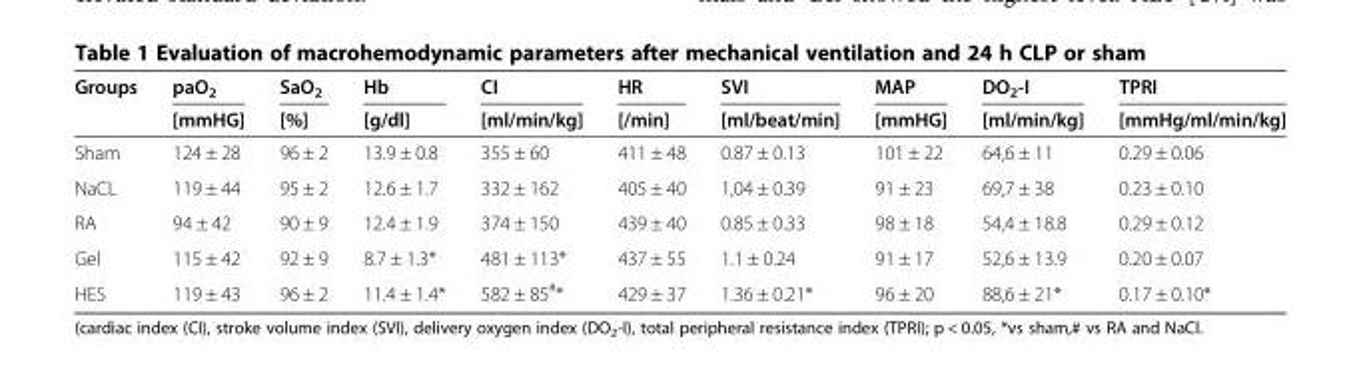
<table><thead><tr><td rowspan="2">Groups</td><td rowspan="2">paO<sub>2</sub> [mmHG]</td><td rowspan="2">SaO<sub>2</sub> [%]</td><td rowspan="2">Hb [g/dl]</td><td rowspan="2">CI [ml/min/kg]</td><td rowspan="2">HR [/min]</td><td rowspan="2">SVI [ml/beat/min]</td><td rowspan="2">MAP [mmHG]</td><td rowspan="2">DO<sub>2</sub>-I [ml/min/kg]</td><td rowspan="2">TPRI [mmHg/ml/min/kg]</td></tr><tr></tr></thead><tbody><tr><td>Sham</td><td>124 ± 28</td><td>96 ± 2</td><td>13.9 ± 0.8</td><td>355 ± 60</td><td>411 ± 48</td><td>0.87 ± 0.13</td><td>101 ± 22</td><td>64,6 ± 11</td><td>0.29 ± 0.06</td></tr><tr><td>NaCL</td><td>119 ± 44</td><td>95 ± 2</td><td>12.6 ± 1.7</td><td>332 ± 162</td><td>405 ± 40</td><td>1,04 ± 0.39</td><td>91 ± 23</td><td>69,7 ± 38</td><td>0.23 ± 0.10</td></tr><tr><td>RA</td><td>94 ± 42</td><td>90 ± 9</td><td>12.4 ± 1.9</td><td>374 ± 150</td><td>439 ± 40</td><td>0.85 ± 0.33</td><td>98 ± 18</td><td>54,4 ± 18.8</td><td>0.29 ± 0.12</td></tr><tr><td>Gel</td><td>115 ± 42</td><td>92 ± 9</td><td>8.7 ± 1.3*</td><td>481 ± 113*</td><td>437 ± 55</td><td>1.1 ± 0.24</td><td>91 ± 17</td><td>52,6 ± 13.9</td><td>0.20 ± 0.07</td></tr><tr><td>HES</td><td>119 ± 43</td><td>96 ± 2</td><td>11.4 ± 1.4*</td><td>582 ± 85<sup>#</sup>*</td><td>429 ± 37</td><td>1.36 ± 0.21*</td><td>96 ± 20</td><td>88,6 ± 21*</td><td>0.17 ± 0.10*</td></tr></tbody></table>